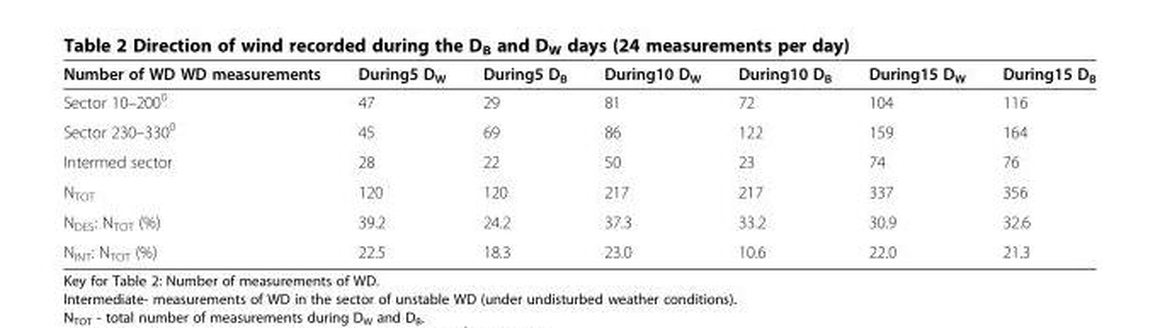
<table><thead><tr><td>Number of WD WD measurements</td><td>During5 D<sub>W</sub></td><td>During5 D<sub>B</sub></td><td>During10 D<sub>W</sub></td><td>During10 D<sub>B</sub></td><td>During15 D<sub>W</sub></td><td>During15 D<sub>B</sub></td></tr></thead><tbody><tr><td>Sector 10–200<sup>0</sup></td><td>47</td><td>29</td><td>81</td><td>72</td><td>104</td><td>116</td></tr><tr><td>Sector 230–330<sup>0</sup></td><td>45</td><td>69</td><td>86</td><td>122</td><td>159</td><td>164</td></tr><tr><td>Intermed sector</td><td>28</td><td>22</td><td>50</td><td>23</td><td>74</td><td>76</td></tr><tr><td>N<sub>TOT</sub></td><td>120</td><td>120</td><td>217</td><td>217</td><td>337</td><td>356</td></tr><tr><td>N<sub>DES</sub>: N<sub>TOT</sub> (%)</td><td>39.2</td><td>24.2</td><td>37.3</td><td>33.2</td><td>30.9</td><td>32.6</td></tr><tr><td>N<sub>INT</sub>: N<sub>TOT</sub> (%)</td><td>22.5</td><td>18.3</td><td>23.0</td><td>10.6</td><td>22.0</td><td>21.3</td></tr></tbody></table>